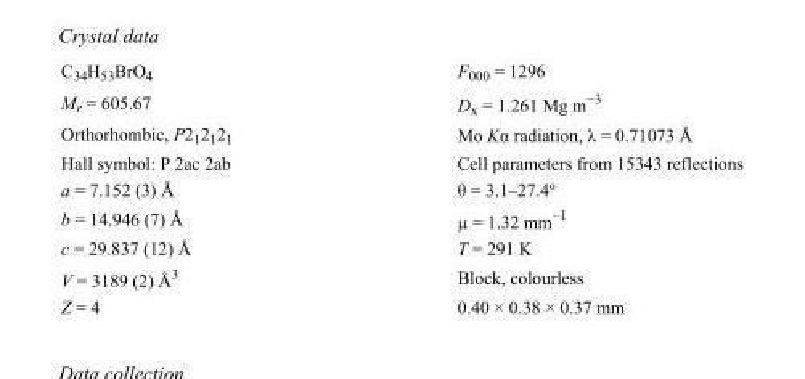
<table><tbody><tr><td>C<sub>34</sub>H<sub>53</sub>BrO<sub>4</sub></td><td>F000 = 1296</td></tr><tr><td>M<sub>r</sub> = 605.67</td><td>D<sub>x</sub> = 1.261 Mg m<sup>−3</sup></td></tr><tr><td>Orthorhombic, P2<sub>1</sub>2<sub>1</sub>2<sub>1</sub></td><td>Mo Kα radiation, λ = 0.71073 Å</td></tr><tr><td>Hall symbol: P 2ac 2ab</td><td>Cell parameters from 15343 reflections</td></tr><tr><td>a = 7.152 (3) Å</td><td>θ = 3.1–27.4º</td></tr><tr><td>b = 14.946 (7) Å</td><td>µ = 1.32 mm<sup>−1</sup></td></tr><tr><td>c = 29.837 (12) Å</td><td>T = 291 K</td></tr><tr><td>V = 3189 (2) Å<sup>3</sup></td><td>Block, colourless</td></tr><tr><td>Z = 4</td><td>0.40 × 0.38 × 0.37 mm</td></tr></tbody></table>